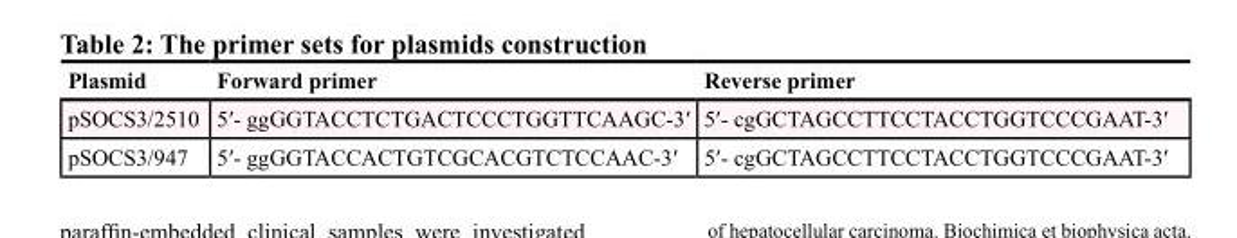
<table><thead><tr><td>Plasmid</td><td>Forward primer</td><td>Reverse primer</td></tr></thead><tbody><tr><td>pSOCS3/2510</td><td>5′- ggGGTACCTCTGACTCCCTGGTTCAAGC-3′</td><td>5′- cgGCTAGCCTTCCTACCTGGTCCCGAAT-3′</td></tr><tr><td>pSOCS3/947</td><td>5′- ggGGTACCACTGTCGCACGTCTCCAAC-3′</td><td>5′- cgGCTAGCCTTCCTACCTGGTCCCGAAT-3′</td></tr></tbody></table>